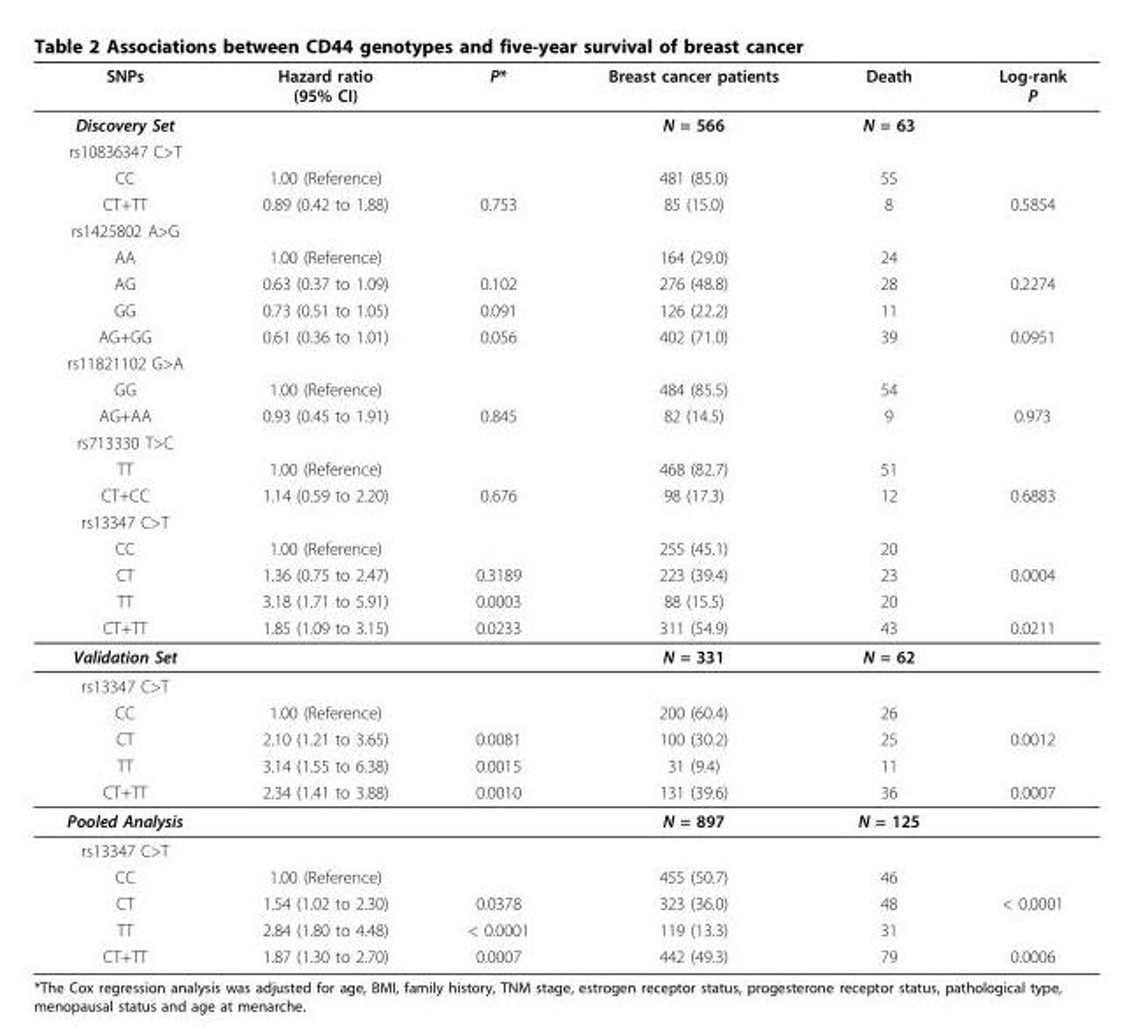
<table><thead><tr><td>SNPs</td><td>Hazard ratio (95% CI)</td><td>P*</td><td>Breast cancer patients</td><td>Death</td><td>Log-rank P</td></tr></thead><tbody><tr><td>Discovery Set</td><td></td><td></td><td>N = 566</td><td>N = 63</td><td></td></tr><tr><td colspan="6">rs10836347 C&gt;T</td></tr><tr><td>CC</td><td>1.00 (Reference)</td><td></td><td>481 (85.0)</td><td>55</td><td></td></tr><tr><td>CT+TT</td><td>0.89 (0.42 to 1.88)</td><td>0.753</td><td>85 (15.0)</td><td>8</td><td>0.5854</td></tr><tr><td colspan="6">rs1425802 A&gt;G</td></tr><tr><td>AA</td><td>1.00 (Reference)</td><td></td><td>164 (29.0)</td><td>24</td><td></td></tr><tr><td>AG</td><td>0.63 (0.37 to 1.09)</td><td>0.102</td><td>276 (48.8)</td><td>28</td><td>0.2274</td></tr><tr><td>GG</td><td>0.73 (0.51 to 1.05)</td><td>0.091</td><td>126 (22.2)</td><td>11</td><td></td></tr><tr><td>AG+GG</td><td>0.61 (0.36 to 1.01)</td><td>0.056</td><td>402 (71.0)</td><td>39</td><td>0.0951</td></tr><tr><td colspan="6">rs11821102 G&gt;A</td></tr><tr><td>GG</td><td>1.00 (Reference)</td><td></td><td>484 (85.5)</td><td>54</td><td></td></tr><tr><td>AG+AA</td><td>0.93 (0.45 to 1.91)</td><td>0.845</td><td>82 (14.5)</td><td>9</td><td>0.973</td></tr><tr><td colspan="6">rs713330 T&gt;C</td></tr><tr><td>TT</td><td>1.00 (Reference)</td><td></td><td>468 (82.7)</td><td>51</td><td></td></tr><tr><td>CT+CC</td><td>1.14 (0.59 to 2.20)</td><td>0.676</td><td>98 (17.3)</td><td>12</td><td>0.6883</td></tr><tr><td colspan="6">rs13347 C&gt;T</td></tr><tr><td>CC</td><td>1.00 (Reference)</td><td></td><td>255 (45.1)</td><td>20</td><td></td></tr><tr><td>CT</td><td>1.36 (0.75 to 2.47)</td><td>0.3189</td><td>223 (39.4)</td><td>23</td><td>0.0004</td></tr><tr><td>TT</td><td>3.18 (1.71 to 5.91)</td><td>0.0003</td><td>88 (15.5)</td><td>20</td><td></td></tr><tr><td>CT+TT</td><td>1.85 (1.09 to 3.15)</td><td>0.0233</td><td>311 (54.9)</td><td>43</td><td>0.0211</td></tr><tr><td>Validation Set</td><td></td><td></td><td>N = 331</td><td>N = 62</td><td></td></tr><tr><td colspan="6">rs13347 C&gt;T</td></tr><tr><td>CC</td><td>1.00 (Reference)</td><td></td><td>200 (60.4)</td><td>26</td><td></td></tr><tr><td>CT</td><td>2.10 (1.21 to 3.65)</td><td>0.0081</td><td>100 (30.2)</td><td>25</td><td>0.0012</td></tr><tr><td>TT</td><td>3.14 (1.55 to 6.38)</td><td>0.0015</td><td>31 (9.4)</td><td>11</td><td></td></tr><tr><td>CT+TT</td><td>2.34 (1.41 to 3.88)</td><td>0.0010</td><td>131 (39.6)</td><td>36</td><td>0.0007</td></tr><tr><td>Pooled Analysis</td><td></td><td></td><td>N = 897</td><td>N = 125</td><td></td></tr><tr><td colspan="6">rs13347 C&gt;T</td></tr><tr><td>CC</td><td>1.00 (Reference)</td><td></td><td>455 (50.7)</td><td>46</td><td></td></tr><tr><td>CT</td><td>1.54 (1.02 to 2.30)</td><td>0.0378</td><td>323 (36.0)</td><td>48</td><td>&lt; 0.0001</td></tr><tr><td>TT</td><td>2.84 (1.80 to 4.48)</td><td>&lt; 0.0001</td><td>119 (13.3)</td><td>31</td><td></td></tr><tr><td>CT+TT</td><td>1.87 (1.30 to 2.70)</td><td>0.0007</td><td>442 (49.3)</td><td>79</td><td>0.0006</td></tr></tbody></table>